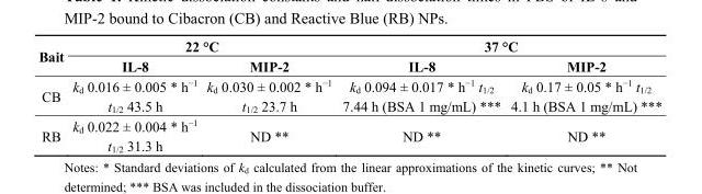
<table><thead><tr><td rowspan="2">Bait</td><td colspan="2">22 °C</td><td colspan="2">37 °C</td></tr><tr><td>IL-8</td><td>MIP-2</td><td>IL-8</td><td>MIP-2</td></tr></thead><tbody><tr><td>CB</td><td>k<sub>d</sub> 0.016 ± 0.005 * h<sup>−1</sup> t<sub>1/2</sub> 43.5 h</td><td>k<sub>d</sub> 0.030 ± 0.002 * h<sup>−1</sup> t<sub>1/2</sub> 23.7 h</td><td>k<sub>d</sub> 0.094 ± 0.017 * h<sup>−1</sup> t<sub>1/2</sub> 7.44 h (BSA 1 mg/mL) ***</td><td>k<sub>d</sub> 0.17 ± 0.05 * h<sup>−1</sup> t<sub>1/2</sub> 4.1 h (BSA 1 mg/mL) ***</td></tr><tr><td>RB</td><td>k<sub>d</sub> 0.022 ± 0.004 * h<sup>−1</sup> t<sub>1/2</sub> 31.3 h</td><td>ND **</td><td>ND **</td><td>ND **</td></tr></tbody></table>